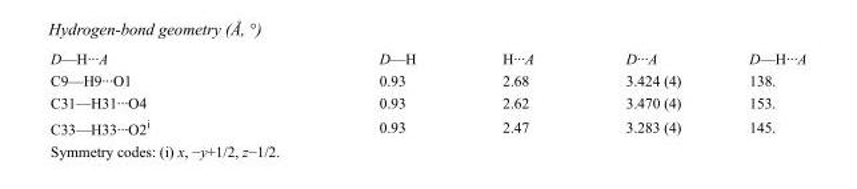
<table><tbody><tr><td>D—H···A</td><td>D—H</td><td>H···A</td><td>D···A</td><td>D—H···A</td></tr><tr><td>C9—H9···O1</td><td>0.93</td><td>2.68</td><td>3.424 (4)</td><td>138.</td></tr><tr><td>C31—H31···O4</td><td>0.93</td><td>2.62</td><td>3.470 (4)</td><td>153.</td></tr><tr><td>C33—H33···O2<sup>i</sup></td><td>0.93</td><td>2.47</td><td>3.283 (4)</td><td>145.</td></tr></tbody></table>